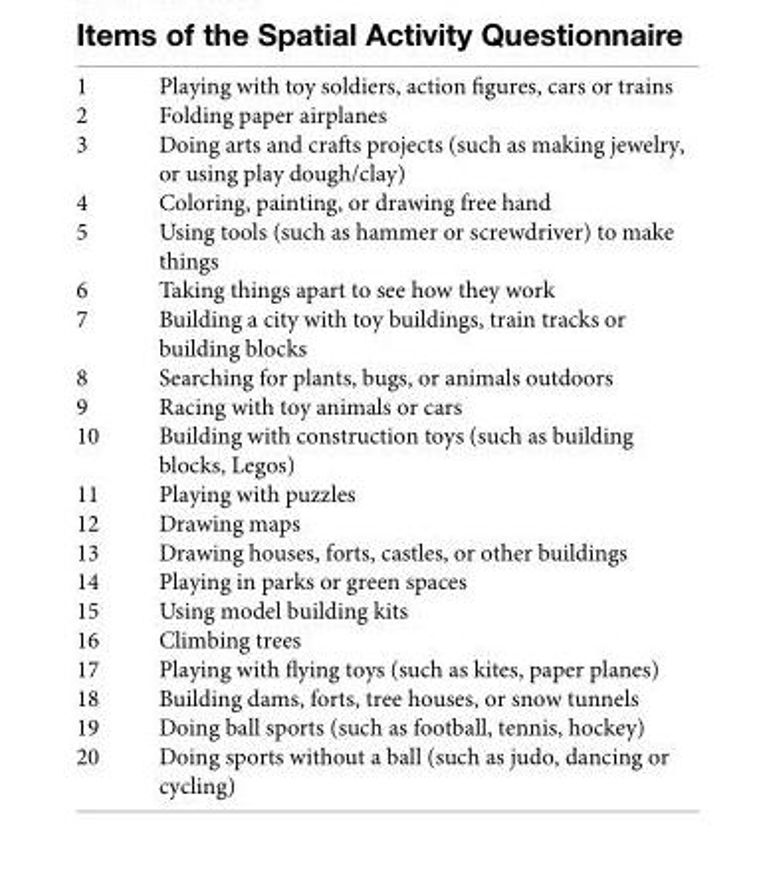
<table><tbody><tr><td>1</td><td>Playing with toy soldiers, action figures, cars or trains</td></tr><tr><td>2</td><td>Folding paper airplanes</td></tr><tr><td>3</td><td>Doing arts and crafts projects (such as making jewelry, or using play dough/clay)</td></tr><tr><td>4</td><td>Coloring, painting, or drawing free hand</td></tr><tr><td>5</td><td>Using tools (such as hammer or screwdriver) to make things</td></tr><tr><td>6</td><td>Taking things apart to see how they work</td></tr><tr><td>7</td><td>Building a city with toy buildings, train tracks or building blocks</td></tr><tr><td>8</td><td>Searching for plants, bugs, or animals outdoors</td></tr><tr><td>9</td><td>Racing with toy animals or cars</td></tr><tr><td>10</td><td>Building with construction toys (such as building blocks, Legos)</td></tr><tr><td>11</td><td>Playing with puzzles</td></tr><tr><td>12</td><td>Drawing maps</td></tr><tr><td>13</td><td>Drawing houses, forts, castles, or other buildings</td></tr><tr><td>14</td><td>Playing in parks or green spaces</td></tr><tr><td>15</td><td>Using model building kits</td></tr><tr><td>16</td><td>Climbing trees</td></tr><tr><td>17</td><td>Playing with flying toys (such as kites, paper planes)</td></tr><tr><td>18</td><td>Building dams, forts, tree houses, or snow tunnels</td></tr><tr><td>19</td><td>Doing ball sports (such as football, tennis, hockey)</td></tr><tr><td>20</td><td>Doing sports without a ball (such as judo, dancing or cycling)</td></tr></tbody></table>